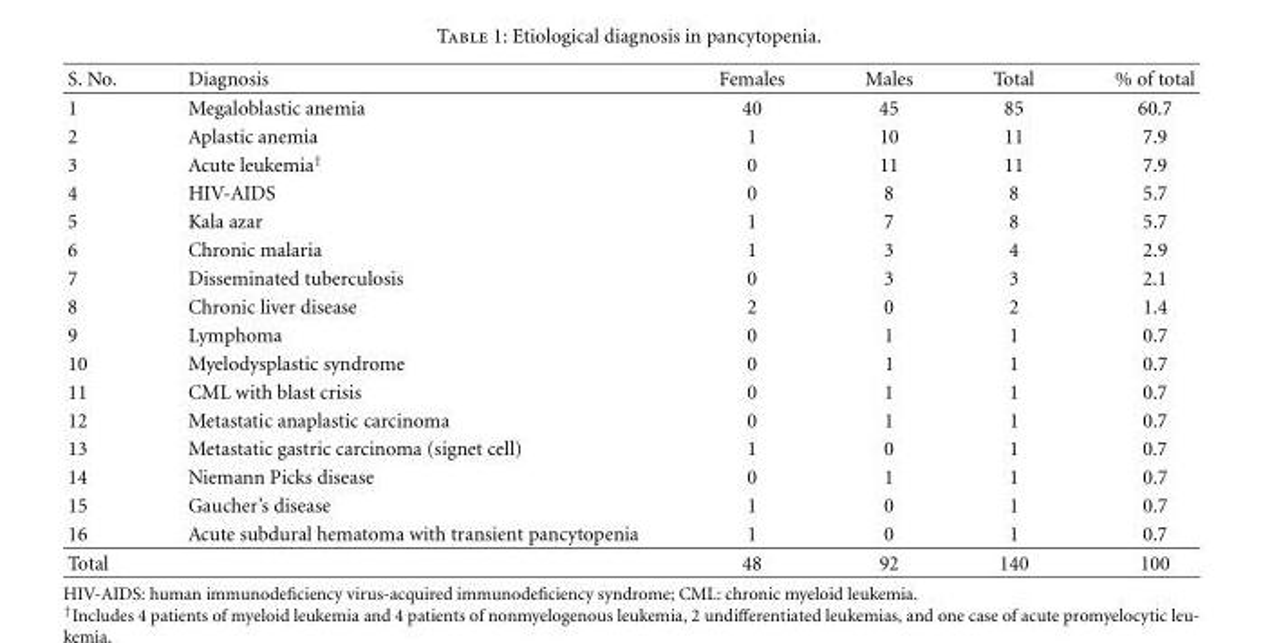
<table><thead><tr><td>S. No.</td><td>Diagnosis</td><td>Females</td><td>Males</td><td>Total</td><td>% of total</td></tr></thead><tbody><tr><td>1</td><td>Megaloblastic anemia</td><td>40</td><td>45</td><td>85</td><td>60.7</td></tr><tr><td>2</td><td>Aplastic anemia</td><td>1</td><td>10</td><td>11</td><td>7.9</td></tr><tr><td>3</td><td>Acute leukemia<sup>†</sup></td><td>0</td><td>11</td><td>11</td><td>7.9</td></tr><tr><td>4</td><td>HIV-AIDS</td><td>0</td><td>8</td><td>8</td><td>5.7</td></tr><tr><td>5</td><td>Kala azar</td><td>1</td><td>7</td><td>8</td><td>5.7</td></tr><tr><td>6</td><td>Chronic malaria</td><td>1</td><td>3</td><td>4</td><td>2.9</td></tr><tr><td>7</td><td>Disseminated tuberculosis</td><td>0</td><td>3</td><td>3</td><td>2.1</td></tr><tr><td>8</td><td>Chronic liver disease</td><td>2</td><td>0</td><td>2</td><td>1.4</td></tr><tr><td>9</td><td>Lymphoma</td><td>0</td><td>1</td><td>1</td><td>0.7</td></tr><tr><td>10</td><td>Myelodysplastic syndrome</td><td>0</td><td>1</td><td>1</td><td>0.7</td></tr><tr><td>11</td><td>CML with blast crisis</td><td>0</td><td>1</td><td>1</td><td>0.7</td></tr><tr><td>12</td><td>Metastatic anaplastic carcinoma</td><td>0</td><td>1</td><td>1</td><td>0.7</td></tr><tr><td>13</td><td>Metastatic gastric carcinoma (signet cell)</td><td>1</td><td>0</td><td>1</td><td>0.7</td></tr><tr><td>14</td><td>Niemann Picks disease</td><td>0</td><td>1</td><td>1</td><td>0.7</td></tr><tr><td>15</td><td>Gaucher’s disease</td><td>1</td><td>0</td><td>1</td><td>0.7</td></tr><tr><td>16</td><td>Acute subdural hematoma with transient pancytopenia</td><td>1</td><td>0</td><td>1</td><td>0.7</td></tr><tr><td>Total</td><td></td><td>48</td><td>92</td><td>140</td><td>100</td></tr></tbody></table>